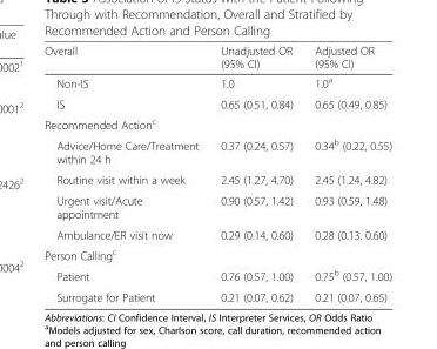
<table><thead><tr><td>Overall</td><td>Unadjusted OR (95% CI)</td><td>Adjusted OR (95% CI)</td></tr></thead><tbody><tr><td>Non-IS</td><td>1.0</td><td>1.0<sup>a</sup></td></tr><tr><td>IS</td><td>0.65 (0.51, 0.84)</td><td>0.65 (0.49, 0.85)</td></tr><tr><td colspan="3">Recommended Action<sup>c</sup></td></tr><tr><td>Advice/Home Care/Treatment within 24 h</td><td>0.37 (0.24, 0.57)</td><td>0.34<sup>b</sup> (0.22, 0.55)</td></tr><tr><td>Routine visit within a week</td><td>2.45 (1.27, 4.70)</td><td>2.45 (1.24, 4.82)</td></tr><tr><td>Urgent visit/Acute appointment</td><td>0.90 (0.57, 1.42)</td><td>0.93 (0.59, 1.48)</td></tr><tr><td>Ambulance/ER visit now</td><td>0.29 (0.14, 0.60)</td><td>0.28 (0.13. 0.60)</td></tr><tr><td colspan="3">Person Calling<sup>c</sup></td></tr><tr><td>Patient</td><td>0.76 (0.57, 1.00)</td><td>0.75<sup>b</sup> (0.57, 1.00)</td></tr><tr><td>Surrogate for Patient</td><td>0.21 (0.07, 0.62)</td><td>0.21 (0.07, 0.65)</td></tr></tbody></table>